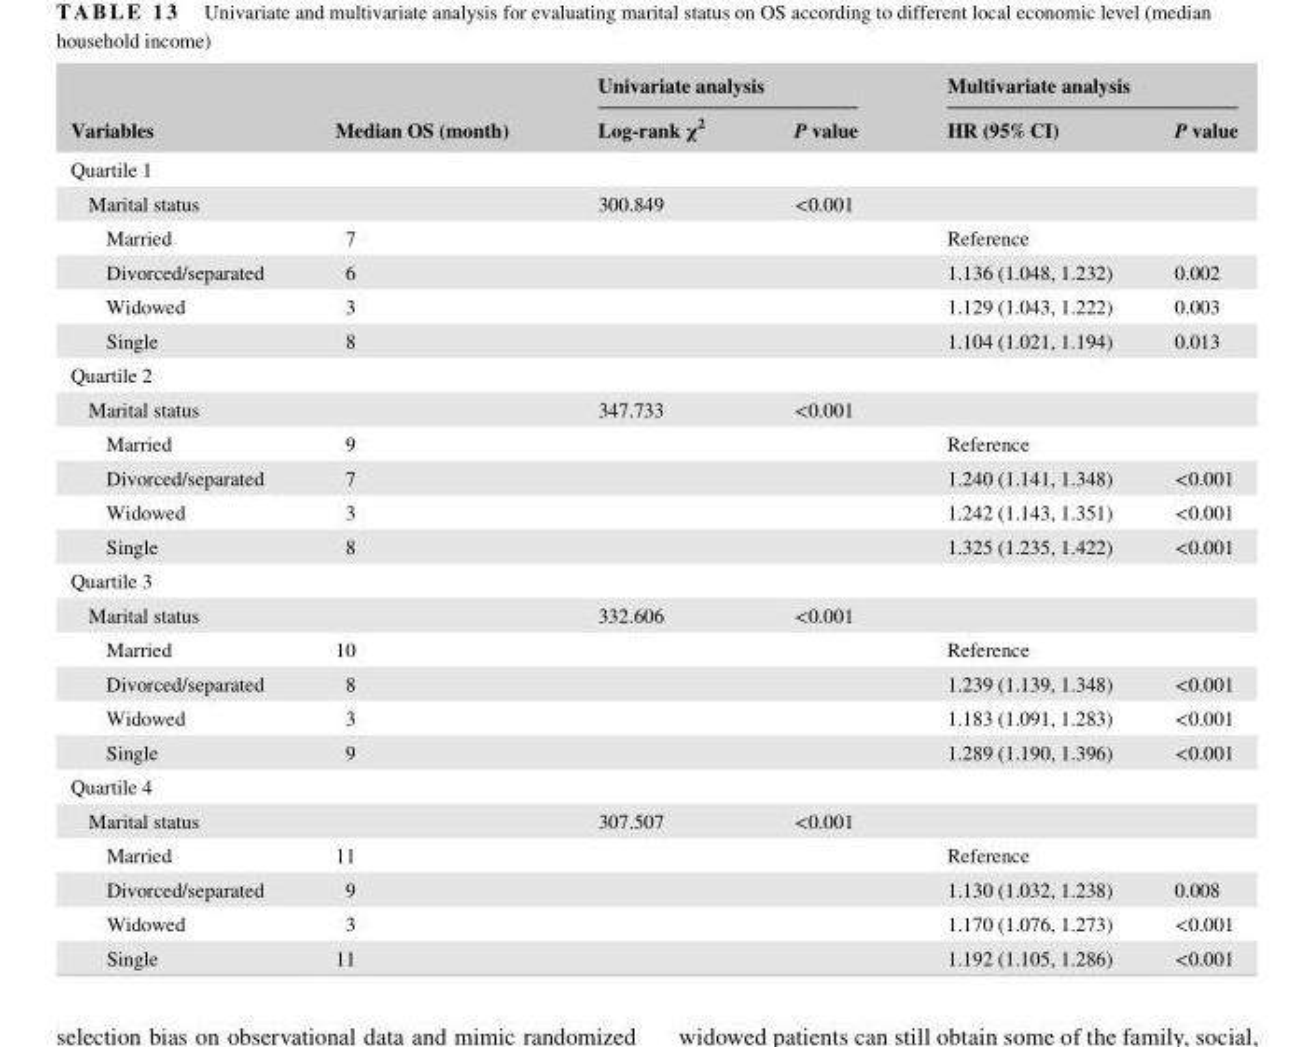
<table><thead><tr><td rowspan="2">Variables</td><td rowspan="2">Median OS (month)</td><td colspan="2">Univariate analysis</td><td colspan="2">Multivariate analysis</td></tr><tr><td>Log- rank χ<sup>2</sup></td><td>P value</td><td>HR (95% CI)</td><td>P value</td></tr></thead><tbody><tr><td colspan="6">Quartile 1</td></tr><tr><td>Marital status</td><td></td><td>300.849</td><td>&lt;0.001</td><td></td><td></td></tr><tr><td>Married</td><td>7</td><td></td><td></td><td>Reference</td><td></td></tr><tr><td>Divorced/separated</td><td>6</td><td></td><td></td><td>1.136 (1.048, 1.232)</td><td>0.002</td></tr><tr><td>Widowed</td><td>3</td><td></td><td></td><td>1.129 (1.043, 1.222)</td><td>0.003</td></tr><tr><td>Single</td><td>8</td><td></td><td></td><td>1.104 (1.021, 1.194)</td><td>0.013</td></tr><tr><td colspan="6">Quartile 2</td></tr><tr><td>Marital status</td><td></td><td>347.733</td><td>&lt;0.001</td><td></td><td></td></tr><tr><td>Married</td><td>9</td><td></td><td></td><td>Reference</td><td></td></tr><tr><td>Divorced/separated</td><td>7</td><td></td><td></td><td>1.240 (1.141, 1.348)</td><td>&lt;0.001</td></tr><tr><td>Widowed</td><td>3</td><td></td><td></td><td>1.242 (1.143, 1.351)</td><td>&lt;0.001</td></tr><tr><td>Single</td><td>8</td><td></td><td></td><td>1.325 (1.235, 1.422)</td><td>&lt;0.001</td></tr><tr><td colspan="6">Quartile 3</td></tr><tr><td>Marital status</td><td></td><td>332.606</td><td>&lt;0.001</td><td></td><td></td></tr><tr><td>Married</td><td>10</td><td></td><td></td><td>Reference</td><td></td></tr><tr><td>Divorced/separated</td><td>8</td><td></td><td></td><td>1.239 (1.139, 1.348)</td><td>&lt;0.001</td></tr><tr><td>Widowed</td><td>3</td><td></td><td></td><td>1.183 (1.091, 1.283)</td><td>&lt;0.001</td></tr><tr><td>Single</td><td>9</td><td></td><td></td><td>1.289 (1.190, 1.396)</td><td>&lt;0.001</td></tr><tr><td colspan="6">Quartile 4</td></tr><tr><td>Marital status</td><td></td><td>307.507</td><td>&lt;0.001</td><td></td><td></td></tr><tr><td>Married</td><td>11</td><td></td><td></td><td>Reference</td><td></td></tr><tr><td>Divorced/separated</td><td>9</td><td></td><td></td><td>1.130 (1.032, 1.238)</td><td>0.008</td></tr><tr><td>Widowed</td><td>3</td><td></td><td></td><td>1.170 (1.076, 1.273)</td><td>&lt;0.001</td></tr><tr><td>Single</td><td>11</td><td></td><td></td><td>1.192 (1.105, 1.286)</td><td>&lt;0.001</td></tr></tbody></table>